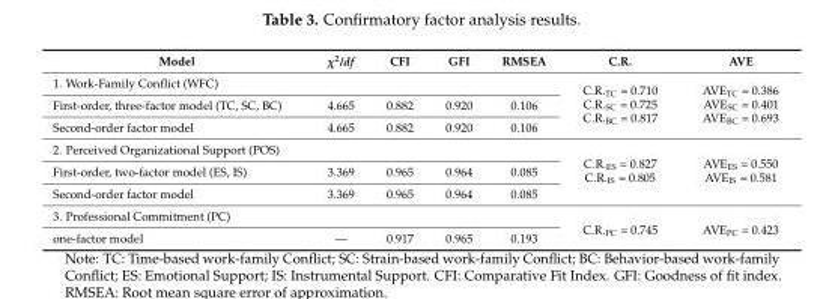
<table><thead><tr><td>Model</td><td>χ<sup>2</sup>/df</td><td>CFI</td><td>GFI</td><td>RMSEA</td><td>C.R.</td><td>AVE</td></tr></thead><tbody><tr><td colspan="5">1. Work-Family Conflict (WFC)</td><td rowspan="3">C.R.<sub>TC</sub> = 0.710 C.R.<sub>SC</sub> = 0.725 C.R.<sub>BC</sub> = 0.817</td><td rowspan="3">AVE<sub>TC</sub> = 0.386 AVE<sub>SC</sub> = 0.401 AVE<sub>BC</sub> = 0.693</td></tr><tr><td>First-order, three-factor model (TC, SC, BC)</td><td>4.665</td><td>0.882</td><td>0.920</td><td>0.106</td></tr><tr><td>Second-order factor model</td><td>4.665</td><td>0.882</td><td>0.920</td><td>0.106</td></tr><tr><td colspan="5">2. Perceived Organizational Support (POS)</td><td rowspan="3">C.R.<sub>ES</sub> = 0.827 C.R.<sub>IS</sub> = 0.805</td><td rowspan="3">AVE<sub>ES</sub> = 0.550 AVE<sub>IS</sub> = 0.581</td></tr><tr><td>First-order, two-factor model (ES, IS)</td><td>3.369</td><td>0.965</td><td>0.964</td><td>0.085</td></tr><tr><td>Second-order factor model</td><td>3.369</td><td>0.965</td><td>0.964</td><td>0.085</td></tr><tr><td colspan="5">3. Professional Commitment (PC)</td><td rowspan="2">C.R.<sub>PC</sub> = 0.745</td><td rowspan="2">AVE<sub>PC</sub> = 0.423</td></tr><tr><td>one-factor model</td><td>—</td><td>0.917</td><td>0.965</td><td>0.193</td></tr></tbody></table>